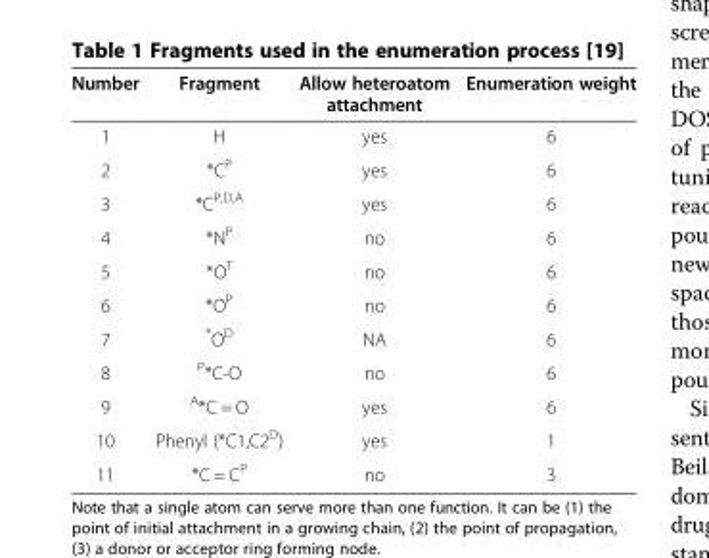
<table><thead><tr><td>Number</td><td>Fragment</td><td>Allow heteroatom attachment</td><td>Enumeration weight</td></tr></thead><tbody><tr><td>1</td><td>H</td><td>yes</td><td>6</td></tr><tr><td>2</td><td>*C<sup>P</sup></td><td>yes</td><td>6</td></tr><tr><td>3</td><td>*C<sup>P,D,A</sup></td><td>yes</td><td>6</td></tr><tr><td>4</td><td>*N<sup>P</sup></td><td>no</td><td>6</td></tr><tr><td>5</td><td>*O<sup>T</sup></td><td>no</td><td>6</td></tr><tr><td>6</td><td>*O<sup>P</sup></td><td>no</td><td>6</td></tr><tr><td>7</td><td>*O<sup>D</sup></td><td>NA</td><td>6</td></tr><tr><td>8</td><td><sup>P</sup>*C-O</td><td>no</td><td>6</td></tr><tr><td>9</td><td><sup>A</sup>*C = O</td><td>yes</td><td>6</td></tr><tr><td>10</td><td>Phenyl (*C1,C2<sup>D</sup>)</td><td>yes</td><td>1</td></tr><tr><td>11</td><td>*C = C<sup>P</sup></td><td>no</td><td>3</td></tr></tbody></table>